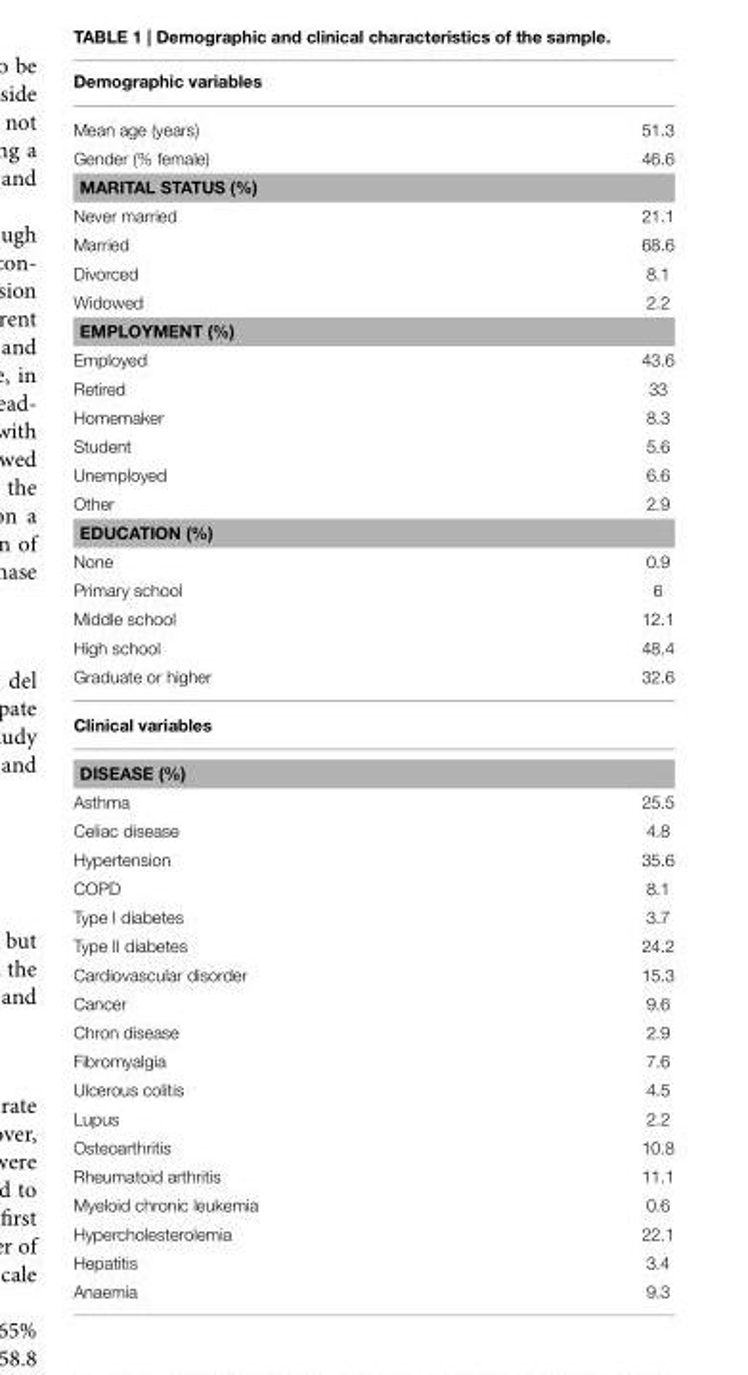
<table><thead><tr><td colspan="2">Demographic variables</td></tr><tr><td>Mean age (years)</td><td>51.3</td></tr></thead><tbody><tr><td>Gender (% female)</td><td>46.6</td></tr><tr><td colspan="2">MARITAL STATUS (%)</td></tr><tr><td>Never married</td><td>21.1</td></tr><tr><td>Married</td><td>68.6</td></tr><tr><td>Divorced</td><td>8.1</td></tr><tr><td>Widowed</td><td>2.2</td></tr><tr><td colspan="2">EMPLOYMENT (%)</td></tr><tr><td>Employed</td><td>43.6</td></tr><tr><td>Retired</td><td>33</td></tr><tr><td>Homemaker</td><td>8.3</td></tr><tr><td>Student</td><td>5.6</td></tr><tr><td>Unemployed</td><td>6.6</td></tr><tr><td>Other</td><td>2.9</td></tr><tr><td colspan="2">EDUCATION (%)</td></tr><tr><td>None</td><td>0.9</td></tr><tr><td>Primary school</td><td>6</td></tr><tr><td>Middle school</td><td>12.1</td></tr><tr><td>High school</td><td>48.4</td></tr><tr><td>Graduate or higher</td><td>32.6</td></tr><tr><td colspan="2">Clinical variables</td></tr><tr><td colspan="2">DISEASE (%)</td></tr><tr><td>Asthma</td><td>25.5</td></tr><tr><td>Celiac disease</td><td>4.8</td></tr><tr><td>Hypertension</td><td>35.6</td></tr><tr><td>COPD</td><td>8.1</td></tr><tr><td>Type I diabetes</td><td>3.7</td></tr><tr><td>Type II diabetes</td><td>24.2</td></tr><tr><td>Cardiovascular disorder</td><td>15.3</td></tr><tr><td>Cancer</td><td>9.6</td></tr><tr><td>Chron disease</td><td>2.9</td></tr><tr><td>Fibromyalgia</td><td>7.6</td></tr><tr><td>Ulcerous colitis</td><td>4.5</td></tr><tr><td>Lupus</td><td>2.2</td></tr><tr><td>Osteoarthritis</td><td>10.8</td></tr><tr><td>Rheumatoid arthritis</td><td>11.1</td></tr><tr><td>Myeloid chronic leukemia</td><td>0.6</td></tr><tr><td>Hypercholesterolemia</td><td>22.1</td></tr><tr><td>Hepatitis</td><td>3.4</td></tr><tr><td>Anaemia</td><td>9.3</td></tr></tbody></table>